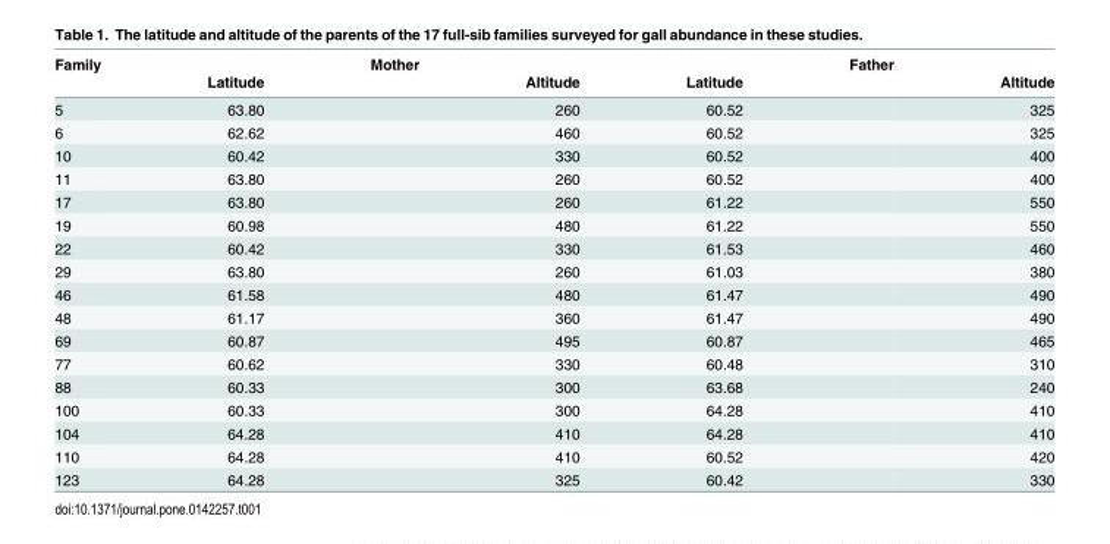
<table><thead><tr><td rowspan="2">Family</td><td rowspan="2">Latitude</td><td rowspan="2">Mother</td><td rowspan="2">Altitude</td><td rowspan="2">Latitude</td><td rowspan="2">Father</td><td rowspan="2">Altitude</td></tr><tr></tr></thead><tbody><tr><td>5</td><td>63.80</td><td></td><td>260</td><td>60.52</td><td></td><td>325</td></tr><tr><td>6</td><td>62.62</td><td></td><td>460</td><td>60.52</td><td></td><td>325</td></tr><tr><td>10</td><td>60.42</td><td></td><td>330</td><td>60.52</td><td></td><td>400</td></tr><tr><td>11</td><td>63.80</td><td></td><td>260</td><td>60.52</td><td></td><td>400</td></tr><tr><td>17</td><td>63.80</td><td></td><td>260</td><td>61.22</td><td></td><td>550</td></tr><tr><td>19</td><td>60.98</td><td></td><td>480</td><td>61.22</td><td></td><td>550</td></tr><tr><td>22</td><td>60.42</td><td></td><td>330</td><td>61.53</td><td></td><td>460</td></tr><tr><td>29</td><td>63.80</td><td></td><td>260</td><td>61.03</td><td></td><td>380</td></tr><tr><td>46</td><td>61.58</td><td></td><td>480</td><td>61.47</td><td></td><td>490</td></tr><tr><td>48</td><td>61.17</td><td></td><td>360</td><td>61.47</td><td></td><td>490</td></tr><tr><td>69</td><td>60.87</td><td></td><td>495</td><td>60.87</td><td></td><td>465</td></tr><tr><td>77</td><td>60.62</td><td></td><td>330</td><td>60.48</td><td></td><td>310</td></tr><tr><td>88</td><td>60.33</td><td></td><td>300</td><td>63.68</td><td></td><td>240</td></tr><tr><td>100</td><td>60.33</td><td></td><td>300</td><td>64.28</td><td></td><td>410</td></tr><tr><td>104</td><td>64.28</td><td></td><td>410</td><td>64.28</td><td></td><td>410</td></tr><tr><td>110</td><td>64.28</td><td></td><td>410</td><td>60.52</td><td></td><td>420</td></tr><tr><td>123</td><td>64.28</td><td></td><td>325</td><td>60.42</td><td></td><td>330</td></tr></tbody></table>